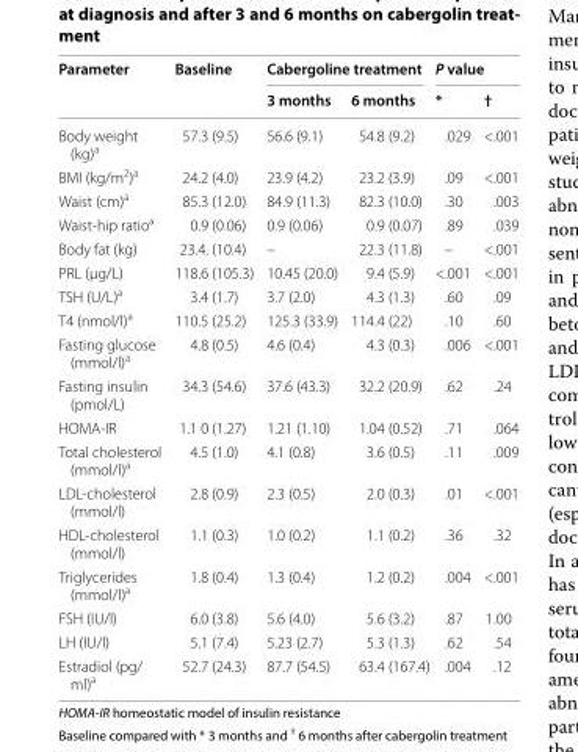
<table><thead><tr><td rowspan="2">Parameter</td><td rowspan="2">Baseline</td><td colspan="2">Cabergoline treatment</td><td colspan="2">P value</td></tr><tr><td>3 months</td><td>6 months</td><td>*</td><td>†</td></tr></thead><tbody><tr><td>Body weight (kg)<sup>a</sup></td><td>57.3 (9.5)</td><td>56.6 (9.1)</td><td>54.8 (9.2)</td><td>.029</td><td>&lt;.001</td></tr><tr><td>BMI (kg/m<sup>2</sup>)<sup>a</sup></td><td>24.2 (4.0)</td><td>23.9 (4.2)</td><td>23.2 (3.9)</td><td>.09</td><td>&lt;.001</td></tr><tr><td>Waist (cm)<sup>a</sup></td><td>85.3 (12.0)</td><td>84.9 (11.3)</td><td>82.3 (10.0)</td><td>.30</td><td>.003</td></tr><tr><td>Waist-hip ratio<sup>a</sup></td><td>0.9 (0.06)</td><td>0.9 (0.06)</td><td>0.9 (0.07)</td><td>.89</td><td>.039</td></tr><tr><td>Body fat (kg)</td><td>23.4. (10.4)</td><td>–</td><td>22.3 (11.8)</td><td>–</td><td>&lt;.001</td></tr><tr><td>PRL (µg/L)</td><td>118.6 (105.3)</td><td>10.45 (20.0)</td><td>9.4 (5.9)</td><td>&lt;.001</td><td>&lt;.001</td></tr><tr><td>TSH (U/L)<sup>a</sup></td><td>3.4 (1.7)</td><td>3.7 (2.0)</td><td>4.3 (1.3)</td><td>.60</td><td>.09</td></tr><tr><td>T4 (nmol/l)<sup>a</sup></td><td>110.5 (25.2)</td><td>125.3 (33.9)</td><td>114.4 (22)</td><td>.10</td><td>.60</td></tr><tr><td>Fasting glucose (mmol/l)<sup>a</sup></td><td>4.8 (0.5)</td><td>4.6 (0.4)</td><td>4.3 (0.3)</td><td>.006</td><td>&lt;.001</td></tr><tr><td>Fasting insulin (pmol/L)</td><td>34.3 (54.6)</td><td>37.6 (43.3)</td><td>32.2 (20.9)</td><td>.62</td><td>.24</td></tr><tr><td>HOMA-IR</td><td>1.1 0 (1.27)</td><td>1.21 (1.10)</td><td>1.04 (0.52)</td><td>.71</td><td>.064</td></tr><tr><td>Total cholesterol (mmol/l)<sup>a</sup></td><td>4.5 (1.0)</td><td>4.1 (0.8)</td><td>3.6 (0.5)</td><td>.11</td><td>.009</td></tr><tr><td>LDL-cholesterol (mmol/l)</td><td>2.8 (0.9)</td><td>2.3 (0.5)</td><td>2.0 (0.3)</td><td>.01</td><td>&lt;.001</td></tr><tr><td>HDL-cholesterol (mmol/l)</td><td>1.1 (0.3)</td><td>1.0 (0.2)</td><td>1.1 (0.2)</td><td>.36</td><td>.32</td></tr><tr><td>Triglycerides (mmol/l)<sup>a</sup></td><td>1.8 (0.4)</td><td>1.3 (0.4)</td><td>1.2 (0.2)</td><td>.004</td><td>&lt;.001</td></tr><tr><td>FSH (IU/l)</td><td>6.0 (3.8)</td><td>5.6 (4.0)</td><td>5.6 (3.2)</td><td>.87</td><td>1.00</td></tr><tr><td>LH (IU/l)</td><td>5.1 (7.4)</td><td>5.23 (2.7)</td><td>5.3 (1.3)</td><td>.62</td><td>.54</td></tr><tr><td>Estradiol (pg/ ml)<sup>a</sup></td><td>52.7 (24.3)</td><td>87.7 (54.5)</td><td>63.4 (167.4)</td><td>.004</td><td>.12</td></tr></tbody></table>